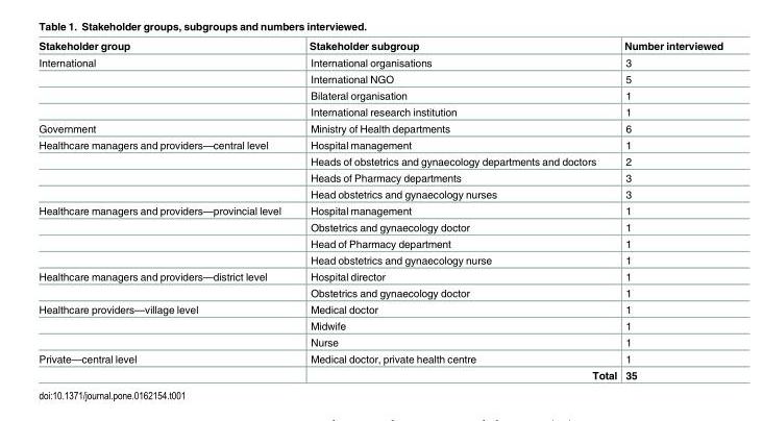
<table><thead><tr><td>Stakeholder group</td><td>Stakeholder subgroup</td><td>Number interviewed</td></tr></thead><tbody><tr><td rowspan="4">International</td><td>International organisations</td><td>3</td></tr><tr><td>International NGO</td><td>5</td></tr><tr><td>Bilateral organisation</td><td>1</td></tr><tr><td>International research institution</td><td>1</td></tr><tr><td>Government</td><td>Ministry of Health departments</td><td>6</td></tr><tr><td rowspan="4">Healthcare managers and providers—central level</td><td>Hospital management</td><td>1</td></tr><tr><td>Heads of obstetrics and gynaecology departments and doctors</td><td>2</td></tr><tr><td>Heads of Pharmacy departments</td><td>3</td></tr><tr><td>Head obstetrics and gynaecology nurses</td><td>3</td></tr><tr><td rowspan="4">Healthcare managers and providers—provincial level</td><td>Hospital management</td><td>1</td></tr><tr><td>Obstetrics and gynaecology doctor</td><td>1</td></tr><tr><td>Head of Pharmacy department</td><td>1</td></tr><tr><td>Head obstetrics and gynaecology nurse</td><td>1</td></tr><tr><td rowspan="2">Healthcare managers and providers—district level</td><td>Hospital director</td><td>1</td></tr><tr><td>Obstetrics and gynaecology doctor</td><td>1</td></tr><tr><td rowspan="3">Healthcare providers—village level</td><td>Medical doctor</td><td>1</td></tr><tr><td>Midwife</td><td>1</td></tr><tr><td>Nurse</td><td>1</td></tr><tr><td rowspan="2">Private—central level</td><td>Medical doctor, private health centre</td><td>1</td></tr><tr><td>Total</td><td>35</td></tr></tbody></table>